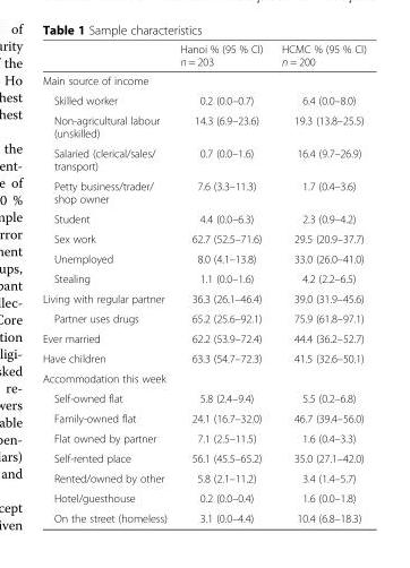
<table><thead><tr><td></td><td>Hanoi % (95 % CI) n = 203</td><td>HCMC % (95 % CI) n = 200</td></tr></thead><tbody><tr><td colspan="3">Main source of income</td></tr><tr><td>Skilled worker</td><td>0.2 (0.0–0.7)</td><td>6.4 (0.0–8.0)</td></tr><tr><td>Non-agricultural labour (unskilled)</td><td>14.3 (6.9–23.6)</td><td>19.3 (13.8–25.5)</td></tr><tr><td>Salaried (clerical/sales/ transport)</td><td>0.7 (0.0–1.6)</td><td>16.4 (9.7–26.9)</td></tr><tr><td>Petty business/trader/ shop owner</td><td>7.6 (3.3–11.3)</td><td>1.7 (0.4–3.6)</td></tr><tr><td>Student</td><td>4.4 (0.0–6.3)</td><td>2.3 (0.9–4.2)</td></tr><tr><td>Sex work</td><td>62.7 (52.5–71.6)</td><td>29.5 (20.9–37.7)</td></tr><tr><td>Unemployed</td><td>8.0 (4.1–13.8)</td><td>33.0 (26.0–41.0)</td></tr><tr><td>Stealing</td><td>1.1 (0.0–1.6)</td><td>4.2 (2.2–6.5)</td></tr><tr><td>Living with regular partner</td><td>36.3 (26.1–46.4)</td><td>39.0 (31.9–45.6)</td></tr><tr><td>Partner uses drugs</td><td>65.2 (25.6–92.1)</td><td>75.9 (61.8–97.1)</td></tr><tr><td>Ever married</td><td>62.2 (53.9–72.4)</td><td>44.4 (36.2–52.7)</td></tr><tr><td>Have children</td><td>63.3 (54.7–72.3)</td><td>41.5 (32.6–50.1)</td></tr><tr><td colspan="3">Accommodation this week</td></tr><tr><td>Self-owned flat</td><td>5.8 (2.4–9.4)</td><td>5.5 (0.2–6.8)</td></tr><tr><td>Family-owned flat</td><td>24.1 (16.7–32.0)</td><td>46.7 (39.4–56.0)</td></tr><tr><td>Flat owned by partner</td><td>7.1 (2.5–11.5)</td><td>1.6 (0.4–3.3)</td></tr><tr><td>Self-rented place</td><td>56.1 (45.5–65.2)</td><td>35.0 (27.1–42.0)</td></tr><tr><td>Rented/owned by other</td><td>5.8 (2.1–11.2)</td><td>3.4 (1.4–5.7)</td></tr><tr><td>Hotel/guesthouse</td><td>0.2 (0.0–0.4)</td><td>1.6 (0.0–1.8)</td></tr><tr><td>On the street (homeless)</td><td>3.1 (0.0–4.4)</td><td>10.4 (6.8–18.3)</td></tr></tbody></table>